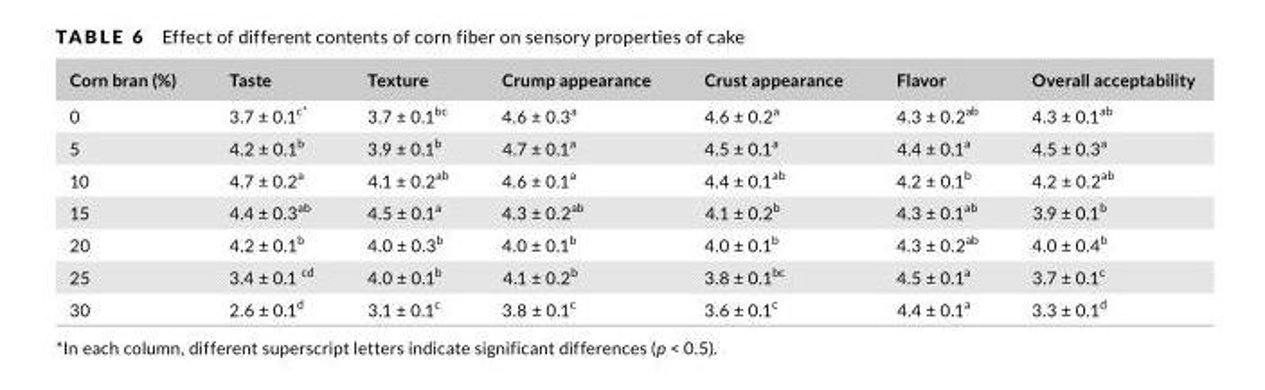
<table><thead><tr><td>Corn bran (%)</td><td>Taste</td><td>Texture</td><td>Crump appearance</td><td>Crust appearance</td><td>Flavor</td><td>Overall acceptability</td></tr></thead><tbody><tr><td>0</td><td>3.7 ± 0.1<sup>c</sup>*</td><td>3.7 ± 0.1<sup>bc</sup></td><td>4.6 ± 0.3<sup>a</sup></td><td>4.6 ± 0.2<sup>a</sup></td><td>4.3 ± 0.2<sup>ab</sup></td><td>4.3 ± 0.1<sup>ab</sup></td></tr><tr><td>5</td><td>4.2 ± 0.1<sup>b</sup></td><td>3.9 ± 0.1<sup>b</sup></td><td>4.7 ± 0.1<sup>a</sup></td><td>4.5 ± 0.1<sup>a</sup></td><td>4.4 ± 0.1<sup>a</sup></td><td>4.5 ± 0.3<sup>a</sup></td></tr><tr><td>10</td><td>4.7 ± 0.2<sup>a</sup></td><td>4.1 ± 0.2<sup>ab</sup></td><td>4.6 ± 0.1<sup>a</sup></td><td>4.4 ± 0.1<sup>ab</sup></td><td>4.2 ± 0.1<sup>b</sup></td><td>4.2 ± 0.2<sup>ab</sup></td></tr><tr><td>15</td><td>4.4 ± 0.3<sup>ab</sup></td><td>4.5 ± 0.1<sup>a</sup></td><td>4.3 ± 0.2<sup>ab</sup></td><td>4.1 ± 0.2<sup>b</sup></td><td>4.3 ± 0.1<sup>ab</sup></td><td>3.9 ± 0.1<sup>b</sup></td></tr><tr><td>20</td><td>4.2 ± 0.1<sup>b</sup></td><td>4.0 ± 0.3<sup>b</sup></td><td>4.0 ± 0.1<sup>b</sup></td><td>4.0 ± 0.1<sup>b</sup></td><td>4.3 ± 0.2<sup>ab</sup></td><td>4.0 ± 0.4<sup>b</sup></td></tr><tr><td>25</td><td>3.4 ± 0.1 <sup>cd</sup></td><td>4.0 ± 0.1<sup>b</sup></td><td>4.1 ± 0.2<sup>b</sup></td><td>3.8 ± 0.1<sup>bc</sup></td><td>4.5 ± 0.1<sup>a</sup></td><td>3.7 ± 0.1<sup>c</sup></td></tr><tr><td>30</td><td>2.6 ± 0.1<sup>d</sup></td><td>3.1 ± 0.1<sup>c</sup></td><td>3.8 ± 0.1<sup>c</sup></td><td>3.6 ± 0.1<sup>c</sup></td><td>4.4 ± 0.1<sup>a</sup></td><td>3.3 ± 0.1<sup>d</sup></td></tr></tbody></table>